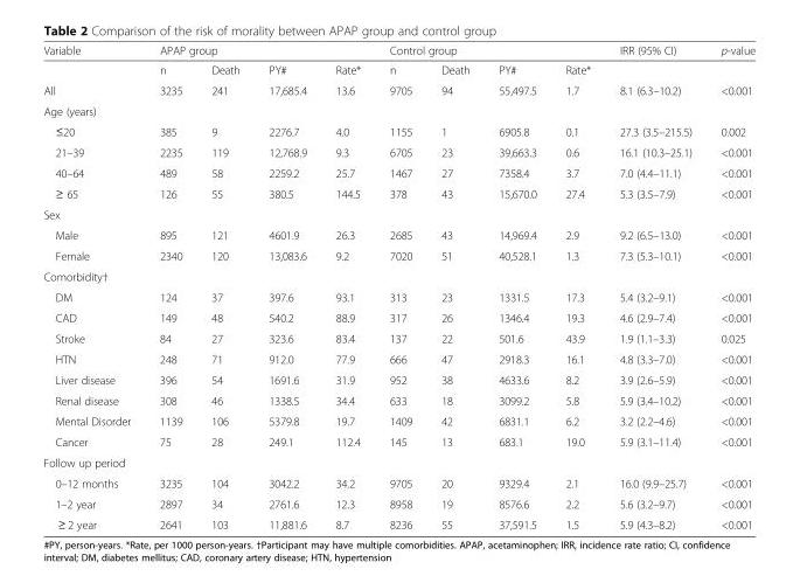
<table><thead><tr><td rowspan="2">Variable</td><td colspan="4">APAP group</td><td colspan="4">Control group</td><td rowspan="2">IRR (95% CI)</td><td rowspan="2">p-value</td></tr><tr><td>n</td><td>Death</td><td>PY#</td><td>Rate*</td><td>n</td><td>Death</td><td>PY#</td><td>Rate*</td></tr></thead><tbody><tr><td>All</td><td>3235</td><td>241</td><td>17,685.4</td><td>13.6</td><td>9705</td><td>94</td><td>55,497.5</td><td>1.7</td><td>8.1 (6.3–10.2)</td><td>&lt;0.001</td></tr><tr><td colspan="11">Age (years)</td></tr><tr><td>≤20</td><td>385</td><td>9</td><td>2276.7</td><td>4.0</td><td>1155</td><td>1</td><td>6905.8</td><td>0.1</td><td>27.3 (3.5–215.5)</td><td>0.002</td></tr><tr><td>21–39</td><td>2235</td><td>119</td><td>12,768.9</td><td>9.3</td><td>6705</td><td>23</td><td>39,663.3</td><td>0.6</td><td>16.1 (10.3–25.1)</td><td>&lt;0.001</td></tr><tr><td>40–64</td><td>489</td><td>58</td><td>2259.2</td><td>25.7</td><td>1467</td><td>27</td><td>7358.4</td><td>3.7</td><td>7.0 (4.4–11.1)</td><td>&lt;0.001</td></tr><tr><td>≥ 65</td><td>126</td><td>55</td><td>380.5</td><td>144.5</td><td>378</td><td>43</td><td>15,670.0</td><td>27.4</td><td>5.3 (3.5–7.9)</td><td>&lt;0.001</td></tr><tr><td colspan="11">Sex</td></tr><tr><td>Male</td><td>895</td><td>121</td><td>4601.9</td><td>26.3</td><td>2685</td><td>43</td><td>14,969.4</td><td>2.9</td><td>9.2 (6.5–13.0)</td><td>&lt;0.001</td></tr><tr><td>Female</td><td>2340</td><td>120</td><td>13,083.6</td><td>9.2</td><td>7020</td><td>51</td><td>40,528.1</td><td>1.3</td><td>7.3 (5.3–10.1)</td><td>&lt;0.001</td></tr><tr><td colspan="11">Comorbidity†</td></tr><tr><td>DM</td><td>124</td><td>37</td><td>397.6</td><td>93.1</td><td>313</td><td>23</td><td>1331.5</td><td>17.3</td><td>5.4 (3.2–9.1)</td><td>&lt;0.001</td></tr><tr><td>CAD</td><td>149</td><td>48</td><td>540.2</td><td>88.9</td><td>317</td><td>26</td><td>1346.4</td><td>19.3</td><td>4.6 (2.9–7.4)</td><td>&lt;0.001</td></tr><tr><td>Stroke</td><td>84</td><td>27</td><td>323.6</td><td>83.4</td><td>137</td><td>22</td><td>501.6</td><td>43.9</td><td>1.9 (1.1–3.3)</td><td>0.025</td></tr><tr><td>HTN</td><td>248</td><td>71</td><td>912.0</td><td>77.9</td><td>666</td><td>47</td><td>2918.3</td><td>16.1</td><td>4.8 (3.3–7.0)</td><td>&lt;0.001</td></tr><tr><td>Liver disease</td><td>396</td><td>54</td><td>1691.6</td><td>31.9</td><td>952</td><td>38</td><td>4633.6</td><td>8.2</td><td>3.9 (2.6–5.9)</td><td>&lt;0.001</td></tr><tr><td>Renal disease</td><td>308</td><td>46</td><td>1338.5</td><td>34.4</td><td>633</td><td>18</td><td>3099.2</td><td>5.8</td><td>5.9 (3.4–10.2)</td><td>&lt;0.001</td></tr><tr><td>Mental Disorder</td><td>1139</td><td>106</td><td>5379.8</td><td>19.7</td><td>1409</td><td>42</td><td>6831.1</td><td>6.2</td><td>3.2 (2.2–4.6)</td><td>&lt;0.001</td></tr><tr><td>Cancer</td><td>75</td><td>28</td><td>249.1</td><td>112.4</td><td>145</td><td>13</td><td>683.1</td><td>19.0</td><td>5.9 (3.1–11.4)</td><td>&lt;0.001</td></tr><tr><td colspan="11">Follow up period</td></tr><tr><td>0–12 months</td><td>3235</td><td>104</td><td>3042.2</td><td>34.2</td><td>9705</td><td>20</td><td>9329.4</td><td>2.1</td><td>16.0 (9.9–25.7)</td><td>&lt;0.001</td></tr><tr><td>1–2 year</td><td>2897</td><td>34</td><td>2761.6</td><td>12.3</td><td>8958</td><td>19</td><td>8576.6</td><td>2.2</td><td>5.6 (3.2–9.7)</td><td>&lt;0.001</td></tr><tr><td>≥ 2 year</td><td>2641</td><td>103</td><td>11,881.6</td><td>8.7</td><td>8236</td><td>55</td><td>37,591.5</td><td>1.5</td><td>5.9 (4.3–8.2)</td><td>&lt;0.001</td></tr></tbody></table>